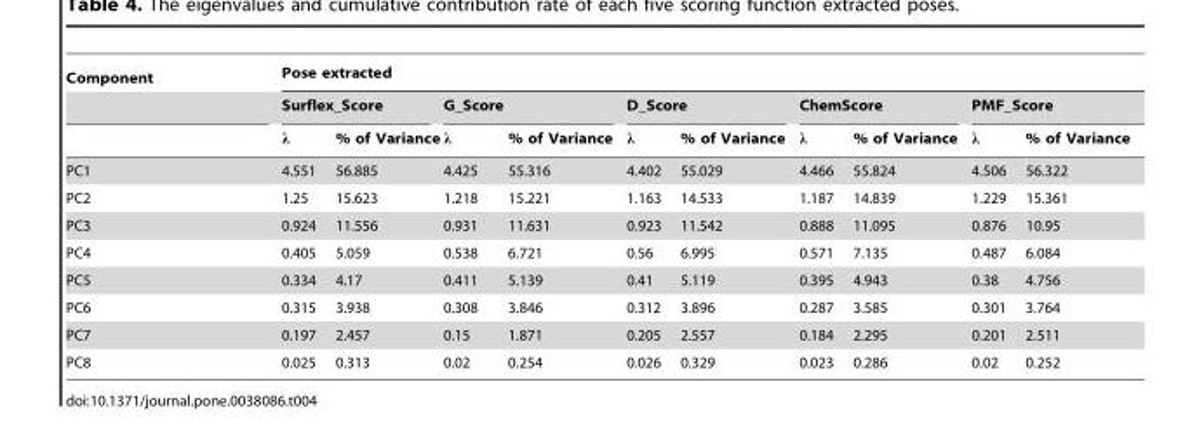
<table><thead><tr><td rowspan="3">Component</td><td colspan="10">Pose extracted</td></tr><tr><td colspan="2">Surflex_Score</td><td colspan="2">G_Score</td><td colspan="2">D_Score</td><td colspan="2">ChemScore</td><td colspan="2">PMF_Score</td></tr><tr><td>λ</td><td>% of Variance</td><td>λ</td><td>% of Variance</td><td>λ</td><td>% of Variance</td><td>λ</td><td>% of Variance</td><td>λ</td><td>% of Variance</td></tr></thead><tbody><tr><td>PC1</td><td>4.551</td><td>56.885</td><td>4.425</td><td>55.316</td><td>4.402</td><td>55.029</td><td>4.466</td><td>55.824</td><td>4.506</td><td>56.322</td></tr><tr><td>PC2</td><td>1.25</td><td>15.623</td><td>1.218</td><td>15.221</td><td>1.163</td><td>14.533</td><td>1.187</td><td>14.839</td><td>1.229</td><td>15.361</td></tr><tr><td>PC3</td><td>0.924</td><td>11.556</td><td>0.931</td><td>11.631</td><td>0.923</td><td>11.542</td><td>0.888</td><td>11.095</td><td>0.876</td><td>10.95</td></tr><tr><td>PC4</td><td>0.405</td><td>5.059</td><td>0.538</td><td>6.721</td><td>0.56</td><td>6.995</td><td>0.571</td><td>7.135</td><td>0.487</td><td>6.084</td></tr><tr><td>PC5</td><td>0.334</td><td>4.17</td><td>0.411</td><td>5.139</td><td>0.41</td><td>5.119</td><td>0.395</td><td>4.943</td><td>0.38</td><td>4.756</td></tr><tr><td>PC6</td><td>0.315</td><td>3.938</td><td>0.308</td><td>3.846</td><td>0.312</td><td>3.896</td><td>0.287</td><td>3.585</td><td>0.301</td><td>3.764</td></tr><tr><td>PC7</td><td>0.197</td><td>2.457</td><td>0.15</td><td>1.871</td><td>0.205</td><td>2.557</td><td>0.184</td><td>2.295</td><td>0.201</td><td>2.511</td></tr><tr><td>PC8</td><td>0.025</td><td>0.313</td><td>0.02</td><td>0.254</td><td>0.026</td><td>0.329</td><td>0.023</td><td>0.286</td><td>0.02</td><td>0.252</td></tr></tbody></table>